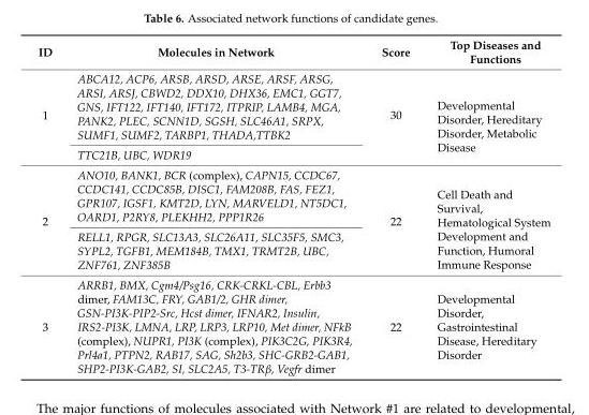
<table><thead><tr><td>ID</td><td>Molecules in Network</td><td>Score</td><td>Top Diseases and Functions</td></tr></thead><tbody><tr><td rowspan="2">1</td><td>ABCA12, ACP6, ARSB, ARSD, ARSE, ARSF, ARSG, ARSI, ARSJ, CBWD2, DDX10, DHX36, EMC1, GGT7, GNS, IFT122, IFT140, IFT172, ITPRIP, LAMB4, MGA, PANK2, PLEC, SCNN1D, SGSH, SLC46A1, SRPX, SUMF1, SUMF2, TARBP1, THADA,TTBK2</td><td rowspan="2">30</td><td rowspan="2">Developmental Disorder, Hereditary Disorder, Metabolic Disease</td></tr><tr><td>TTC21B, UBC, WDR19</td></tr><tr><td rowspan="2">2</td><td>ANO10, BANK1, BCR (complex), CAPN15, CCDC67, CCDC141, CCDC85B, DISC1, FAM208B, FAS, FEZ1, GPR107, IGSF1, KMT2D, LYN, MARVELD1, NT5DC1, OARD1, P2RY8, PLEKHH2, PPP1R26</td><td rowspan="2">22</td><td rowspan="2">Cell Death and Survival, Hematological System Development and Function, Humoral Immune Response</td></tr><tr><td>RELL1, RPGR, SLC13A3, SLC26A11, SLC35F5, SMC3, SYPL2, TGFB1, MEM184B, TMX1, TRMT2B, UBC, ZNF761, ZNF385B</td></tr><tr><td>3</td><td>ARRB1, BMX, Cgm4/Psg16, CRK-CRKL-CBL, Erbb3 dimer, FAM13C, FRY, GAB1/2, GHR dimer, GSN-PI3K-PIP2-Src, Hcst dimer, IFNAR2, Insulin, IRS2-PI3K, LMNA, LRP, LRP3, LRP10, Met dimer, NFkB (complex), NUPR1, PI3K (complex), PIK3C2G, PIK3R4, Prl4a1, PTPN2, RAB17, SAG, Sh2b3, SHC-GRB2-GAB1, SHP2-PI3K-GAB2, SI, SLC2A5, T3-TRβ, Vegfr dimer</td><td>22</td><td>Developmental Disorder, Gastrointestinal Disease, Hereditary Disorder</td></tr></tbody></table>